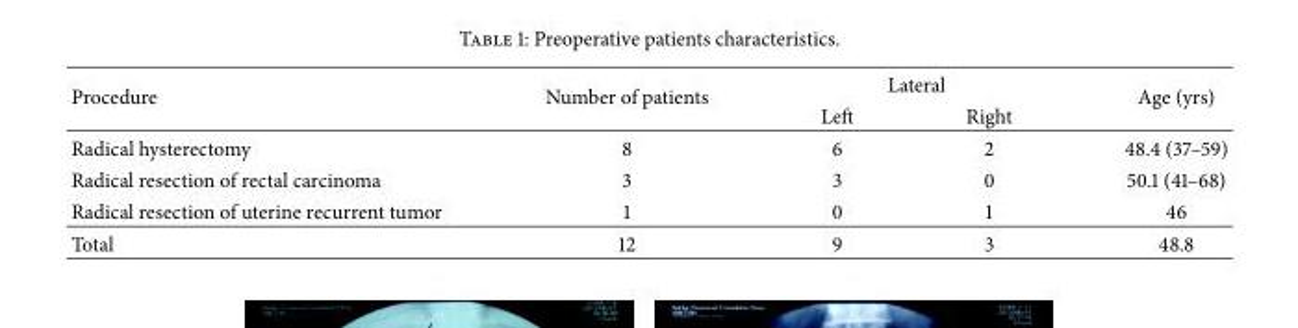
<table><thead><tr><td rowspan="2">Procedure</td><td rowspan="2">Number of patients</td><td colspan="2">Lateral</td><td rowspan="2">Age (yrs)</td></tr><tr><td>Left</td><td>Right</td></tr></thead><tbody><tr><td>Radical hysterectomy</td><td>8</td><td>6</td><td>2</td><td>48.4 (37–59)</td></tr><tr><td>Radical resection of rectal carcinoma</td><td>3</td><td>3</td><td>0</td><td>50.1 (41–68)</td></tr><tr><td>Radical resection of uterine recurrent tumor</td><td>1</td><td>0</td><td>1</td><td>46</td></tr><tr><td>Total</td><td>12</td><td>9</td><td>3</td><td>48.8</td></tr></tbody></table>